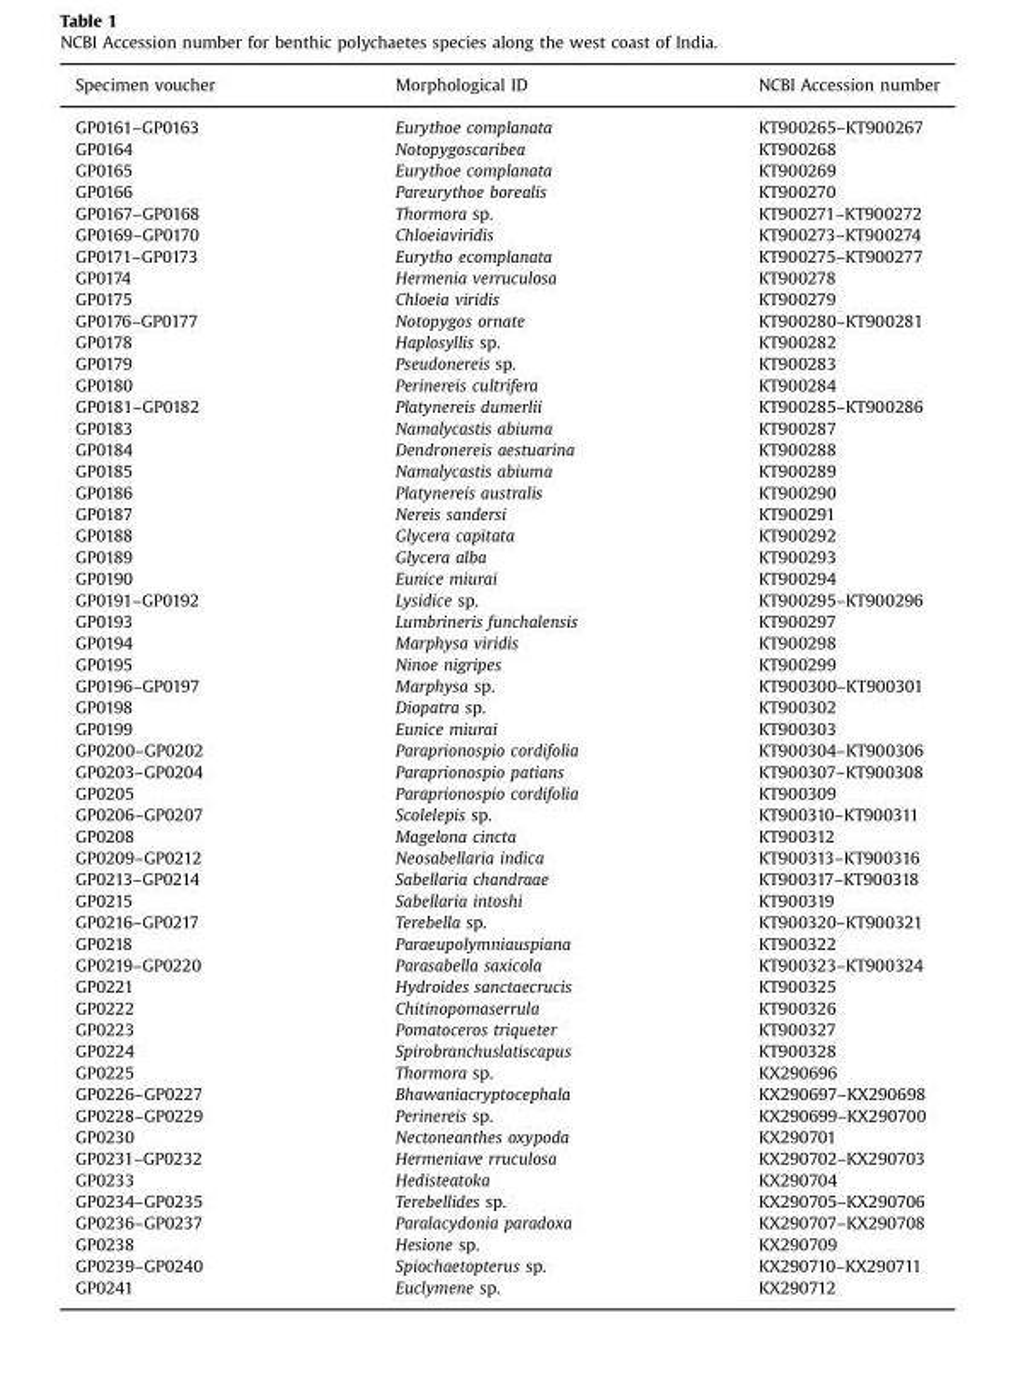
<table><thead><tr><td>Specimen voucher</td><td>Morphological ID</td><td>NCBI Accession number</td></tr></thead><tbody><tr><td>GP0161–GP0163</td><td>Eurythoe complanata</td><td>KT900265–KT900267</td></tr><tr><td>GP0164</td><td>Notopygoscaribea</td><td>KT900268</td></tr><tr><td>GP0165</td><td>Eurythoe complanata</td><td>KT900269</td></tr><tr><td>GP0166</td><td>Pareurythoe borealis</td><td>KT900270</td></tr><tr><td>GP0167–GP0168</td><td>Thormora sp.</td><td>KT900271–KT900272</td></tr><tr><td>GP0169–GP0170</td><td>Chloeiaviridis</td><td>KT900273–KT900274</td></tr><tr><td>GP0171–GP0173</td><td>Eurytho ecomplanata</td><td>KT900275–KT900277</td></tr><tr><td>GP0174</td><td>Hermenia verruculosa</td><td>KT900278</td></tr><tr><td>GP0175</td><td>Chloeia viridis</td><td>KT900279</td></tr><tr><td>GP0176–GP0177</td><td>Notopygos ornate</td><td>KT900280–KT900281</td></tr><tr><td>GP0178</td><td>Haplosyllis sp.</td><td>KT900282</td></tr><tr><td>GP0179</td><td>Pseudonereis sp.</td><td>KT900283</td></tr><tr><td>GP0180</td><td>Perinereis cultrifera</td><td>KT900284</td></tr><tr><td>GP0181–GP0182</td><td>Platynereis dumerlii</td><td>KT900285–KT900286</td></tr><tr><td>GP0183</td><td>Namalycastis abiuma</td><td>KT900287</td></tr><tr><td>GP0184</td><td>Dendronereis aestuarina</td><td>KT900288</td></tr><tr><td>GP0185</td><td>Namalycastis abiuma</td><td>KT900289</td></tr><tr><td>GP0186</td><td>Platynereis australis</td><td>KT900290</td></tr><tr><td>GP0187</td><td>Nereis sandersi</td><td>KT900291</td></tr><tr><td>GP0188</td><td>Glycera capitata</td><td>KT900292</td></tr><tr><td>GP0189</td><td>Glycera alba</td><td>KT900293</td></tr><tr><td>GP0190</td><td>Eunice miurai</td><td>KT900294</td></tr><tr><td>GP0191–GP0192</td><td>Lysidice sp.</td><td>KT900295–KT900296</td></tr><tr><td>GP0193</td><td>Lumbrineris funchalensis</td><td>KT900297</td></tr><tr><td>GP0194</td><td>Marphysa viridis</td><td>KT900298</td></tr><tr><td>GP0195</td><td>Ninoe nigripes</td><td>KT900299</td></tr><tr><td>GP0196–GP0197</td><td>Marphysa sp.</td><td>KT900300–KT900301</td></tr><tr><td>GP0198</td><td>Diopatra sp.</td><td>KT900302</td></tr><tr><td>GP0199</td><td>Eunice miurai</td><td>KT900303</td></tr><tr><td>GP0200–GP0202</td><td>Paraprionospio cordifolia</td><td>KT900304–KT900306</td></tr><tr><td>GP0203–GP0204</td><td>Paraprionospio patians</td><td>KT900307–KT900308</td></tr><tr><td>GP0205</td><td>Paraprionospio cordifolia</td><td>KT900309</td></tr><tr><td>GP0206–GP0207</td><td>Scolelepis sp.</td><td>KT900310–KT900311</td></tr><tr><td>GP0208</td><td>Magelona cincta</td><td>KT900312</td></tr><tr><td>GP0209–GP0212</td><td>Neosabellaria indica</td><td>KT900313–KT900316</td></tr><tr><td>GP0213–GP0214</td><td>Sabellaria chandraae</td><td>KT900317–KT900318</td></tr><tr><td>GP0215</td><td>Sabellaria intoshi</td><td>KT900319</td></tr><tr><td>GP0216–GP0217</td><td>Terebella sp.</td><td>KT900320–KT900321</td></tr><tr><td>GP0218</td><td>Paraeupolymniauspiana</td><td>KT900322</td></tr><tr><td>GP0219–GP0220</td><td>Parasabella saxicola</td><td>KT900323–KT900324</td></tr><tr><td>GP0221</td><td>Hydroides sanctaecrucis</td><td>KT900325</td></tr><tr><td>GP0222</td><td>Chitinopomaserrula</td><td>KT900326</td></tr><tr><td>GP0223</td><td>Pomatoceros triqueter</td><td>KT900327</td></tr><tr><td>GP0224</td><td>Spirobranchuslatiscapus</td><td>KT900328</td></tr><tr><td>GP0225</td><td>Thormora sp.</td><td>KX290696</td></tr><tr><td>GP0226–GP0227</td><td>Bhawaniacryptocephala</td><td>KX290697–KX290698</td></tr><tr><td>GP0228–GP0229</td><td>Perinereis sp.</td><td>KX290699–KX290700</td></tr><tr><td>GP0230</td><td>Nectoneanthes oxypoda</td><td>KX290701</td></tr><tr><td>GP0231–GP0232</td><td>Hermeniave rruculosa</td><td>KX290702–KX290703</td></tr><tr><td>GP0233</td><td>Hedisteatoka</td><td>KX290704</td></tr><tr><td>GP0234–GP0235</td><td>Terebellides sp.</td><td>KX290705–KX290706</td></tr><tr><td>GP0236–GP0237</td><td>Paralacydonia paradoxa</td><td>KX290707–KX290708</td></tr><tr><td>GP0238</td><td>Hesione sp.</td><td>KX290709</td></tr><tr><td>GP0239–GP0240</td><td>Spiochaetopterus sp.</td><td>KX290710–KX290711</td></tr><tr><td>GP0241</td><td>Euclymene sp.</td><td>KX290712</td></tr></tbody></table>